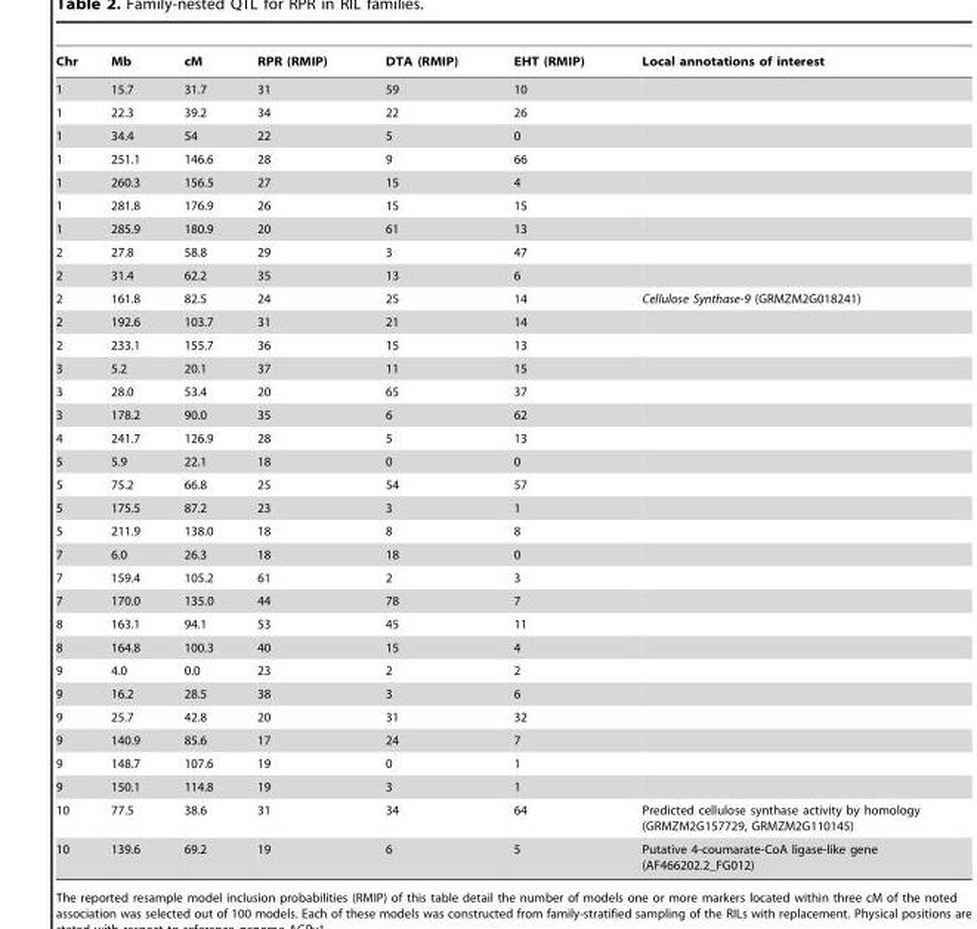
<table><thead><tr><td>Chr</td><td>Mb</td><td>cM</td><td>RPR (RMIP)</td><td>DTA (RMIP)</td><td>EHT (RMIP)</td><td>Local annotations of interest</td></tr></thead><tbody><tr><td>1</td><td>15.7</td><td>31.7</td><td>31</td><td>59</td><td>10</td><td></td></tr><tr><td>1</td><td>22.3</td><td>39.2</td><td>34</td><td>22</td><td>26</td><td></td></tr><tr><td>1</td><td>34.4</td><td>54</td><td>22</td><td>5</td><td>0</td><td></td></tr><tr><td>1</td><td>251.1</td><td>146.6</td><td>28</td><td>9</td><td>66</td><td></td></tr><tr><td>1</td><td>260.3</td><td>156.5</td><td>27</td><td>15</td><td>4</td><td></td></tr><tr><td>1</td><td>281.8</td><td>176.9</td><td>26</td><td>15</td><td>15</td><td></td></tr><tr><td>1</td><td>285.9</td><td>180.9</td><td>20</td><td>61</td><td>13</td><td></td></tr><tr><td>2</td><td>27.8</td><td>58.8</td><td>29</td><td>3</td><td>47</td><td></td></tr><tr><td>2</td><td>31.4</td><td>62.2</td><td>35</td><td>13</td><td>6</td><td></td></tr><tr><td>2</td><td>161.8</td><td>82.5</td><td>24</td><td>25</td><td>14</td><td>Cellulose Synthase-9 (GRMZM2G018241)</td></tr><tr><td>2</td><td>192.6</td><td>103.7</td><td>31</td><td>21</td><td>14</td><td></td></tr><tr><td>2</td><td>233.1</td><td>155.7</td><td>36</td><td>15</td><td>13</td><td></td></tr><tr><td>3</td><td>5.2</td><td>20.1</td><td>37</td><td>11</td><td>15</td><td></td></tr><tr><td>3</td><td>28.0</td><td>53.4</td><td>20</td><td>65</td><td>37</td><td></td></tr><tr><td>3</td><td>178.2</td><td>90.0</td><td>35</td><td>6</td><td>62</td><td></td></tr><tr><td>4</td><td>241.7</td><td>126.9</td><td>28</td><td>5</td><td>13</td><td></td></tr><tr><td>5</td><td>5.9</td><td>22.1</td><td>18</td><td>0</td><td>0</td><td></td></tr><tr><td>5</td><td>75.2</td><td>66.8</td><td>25</td><td>54</td><td>57</td><td></td></tr><tr><td>5</td><td>175.5</td><td>87.2</td><td>23</td><td>3</td><td>1</td><td></td></tr><tr><td>5</td><td>211.9</td><td>138.0</td><td>18</td><td>8</td><td>8</td><td></td></tr><tr><td>7</td><td>6.0</td><td>26.3</td><td>18</td><td>18</td><td>0</td><td></td></tr><tr><td>7</td><td>159.4</td><td>105.2</td><td>61</td><td>2</td><td>3</td><td></td></tr><tr><td>7</td><td>170.0</td><td>135.0</td><td>44</td><td>78</td><td>7</td><td></td></tr><tr><td>8</td><td>163.1</td><td>94.1</td><td>53</td><td>45</td><td>11</td><td></td></tr><tr><td>8</td><td>164.8</td><td>100.3</td><td>40</td><td>15</td><td>4</td><td></td></tr><tr><td>9</td><td>4.0</td><td>0.0</td><td>23</td><td>2</td><td>2</td><td></td></tr><tr><td>9</td><td>16.2</td><td>28.5</td><td>38</td><td>3</td><td>6</td><td></td></tr><tr><td>9</td><td>25.7</td><td>42.8</td><td>20</td><td>31</td><td>32</td><td></td></tr><tr><td>9</td><td>140.9</td><td>85.6</td><td>17</td><td>24</td><td>7</td><td></td></tr><tr><td>9</td><td>148.7</td><td>107.6</td><td>19</td><td>0</td><td>1</td><td></td></tr><tr><td>9</td><td>150.1</td><td>114.8</td><td>19</td><td>3</td><td>1</td><td></td></tr><tr><td>10</td><td>77.5</td><td>38.6</td><td>31</td><td>34</td><td>64</td><td>Predicted cellulose synthase activity by homology (GRMZM2G157729, GRMZM2G110145)</td></tr><tr><td>10</td><td>139.6</td><td>69.2</td><td>19</td><td>6</td><td>5</td><td>Putative 4-coumarate-CoA ligase-like gene (AF466202.2_FG012)</td></tr></tbody></table>